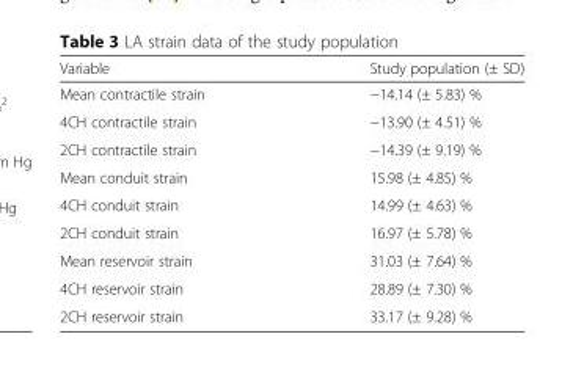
<table><thead><tr><td>Variable</td><td>Study population (± SD)</td></tr></thead><tbody><tr><td>Mean contractile strain</td><td>−14.14 (± 5.83) %</td></tr><tr><td>4CH contractile strain</td><td>−13.90 (± 4.51) %</td></tr><tr><td>2CH contractile strain</td><td>−14.39 (± 9.19) %</td></tr><tr><td>Mean conduit strain</td><td>15.98 (± 4.85) %</td></tr><tr><td>4CH conduit strain</td><td>14.99 (± 4.63) %</td></tr><tr><td>2CH conduit strain</td><td>16.97 (± 5.78) %</td></tr><tr><td>Mean reservoir strain</td><td>31.03 (± 7.64) %</td></tr><tr><td>4CH reservoir strain</td><td>28.89 (± 7.30) %</td></tr><tr><td>2CH reservoir strain</td><td>33.17 (± 9.28) %</td></tr></tbody></table>